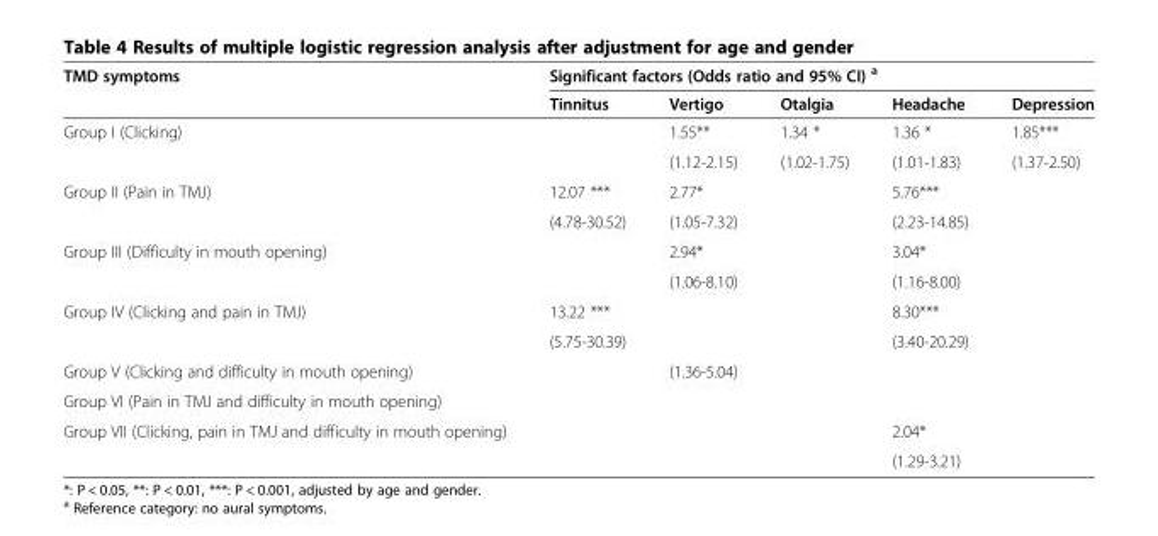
<table><thead><tr><td rowspan="2">TMD symptoms</td><td colspan="5">Significant factors (Odds ratio and 95% CI) <sup>a</sup></td></tr><tr><td>Tinnitus</td><td>Vertigo</td><td>Otalgia</td><td>Headache</td><td>Depression</td></tr></thead><tbody><tr><td rowspan="2">Group I (Clicking)</td><td></td><td>1.55**</td><td>1.34 *</td><td>1.36 *</td><td>1.85***</td></tr><tr><td></td><td>(1.12-2.15)</td><td>(1.02-1.75)</td><td>(1.01-1.83)</td><td>(1.37-2.50)</td></tr><tr><td rowspan="2">Group II (Pain in TMJ)</td><td>12.07 ***</td><td>2.77*</td><td></td><td>5.76***</td><td></td></tr><tr><td>(4.78-30.52)</td><td>(1.05-7.32)</td><td></td><td>(2.23-14.85)</td><td></td></tr><tr><td rowspan="2">Group III (Difficulty in mouth opening)</td><td></td><td>2.94*</td><td></td><td>3.04*</td><td></td></tr><tr><td></td><td>(1.06-8.10)</td><td></td><td>(1.16-8.00)</td><td></td></tr><tr><td rowspan="2">Group IV (Clicking and pain in TMJ)</td><td>13.22 ***</td><td></td><td></td><td>8.30***</td><td></td></tr><tr><td>(5.75-30.39)</td><td></td><td></td><td>(3.40-20.29)</td><td></td></tr><tr><td>Group V (Clicking and difficulty in mouth opening)</td><td></td><td>(1.36-5.04)</td><td></td><td></td><td></td></tr><tr><td colspan="6">Group VI (Pain in TMJ and difficulty in mouth opening)</td></tr><tr><td rowspan="2">Group VII (Clicking, pain in TMJ and difficulty in mouth opening)</td><td></td><td></td><td></td><td>2.04*</td><td></td></tr><tr><td></td><td></td><td></td><td>(1.29-3.21)</td><td></td></tr></tbody></table>